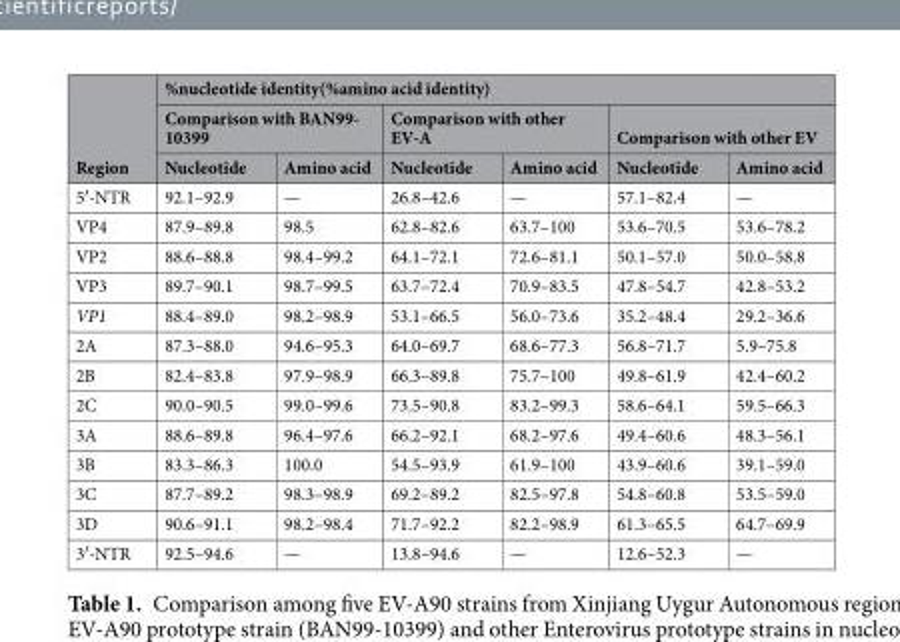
<table><thead><tr><td rowspan="3">Region</td><td colspan="6">%nucleotide identity(%amino acid identity)</td></tr><tr><td colspan="2">Comparison with BAN99- 10399</td><td colspan="2">Comparison with other EV-A</td><td colspan="2">Comparison with other EV</td></tr><tr><td>Nucleotide</td><td>Amino acid</td><td>Nucleotide</td><td>Amino acid</td><td>Nucleotide</td><td>Amino acid</td></tr></thead><tbody><tr><td>5′-NTR</td><td>92.1–92.9</td><td>—</td><td>26.8–42.6</td><td>—</td><td>57.1–82.4</td><td>—</td></tr><tr><td>VP4</td><td>87.9–89.8</td><td>98.5</td><td>62.8–82.6</td><td>63.7–100</td><td>53.6–70.5</td><td>53.6–78.2</td></tr><tr><td>VP2</td><td>88.6–88.8</td><td>98.4–99.2</td><td>64.1–72.1</td><td>72.6–81.1</td><td>50.1–57.0</td><td>50.0–58.8</td></tr><tr><td>VP3</td><td>89.7–90.1</td><td>98.7–99.5</td><td>63.7–72.4</td><td>70.9–83.5</td><td>47.8–54.7</td><td>42.8–53.2</td></tr><tr><td>VP1</td><td>88.4–89.0</td><td>98.2–98.9</td><td>53.1–66.5</td><td>56.0–73.6</td><td>35.2–48.4</td><td>29.2–36.6</td></tr><tr><td>2A</td><td>87.3–88.0</td><td>94.6–95.3</td><td>64.0–69.7</td><td>68.6–77.3</td><td>56.8–71.7</td><td>5.9–75.8</td></tr><tr><td>2B</td><td>82.4–83.8</td><td>97.9–98.9</td><td>66.3–89.8</td><td>75.7–100</td><td>49.8–61.9</td><td>42.4–60.2</td></tr><tr><td>2C</td><td>90.0–90.5</td><td>99.0–99.6</td><td>73.5–90.8</td><td>83.2–99.3</td><td>58.6–64.1</td><td>59.5–66.3</td></tr><tr><td>3A</td><td>88.6–89.8</td><td>96.4–97.6</td><td>66.2–92.1</td><td>68.2–97.6</td><td>49.4–60.6</td><td>48.3–56.1</td></tr><tr><td>3B</td><td>83.3–86.3</td><td>100.0</td><td>54.5–93.9</td><td>61.9–100</td><td>43.9–60.6</td><td>39.1–59.0</td></tr><tr><td>3C</td><td>87.7–89.2</td><td>98.3–98.9</td><td>69.2–89.2</td><td>82.5–97.8</td><td>54.8–60.8</td><td>53.5–59.0</td></tr><tr><td>3D</td><td>90.6–91.1</td><td>98.2–98.4</td><td>71.7–92.2</td><td>82.2–98.9</td><td>61.3–65.5</td><td>64.7–69.9</td></tr><tr><td>3′-NTR</td><td>92.5–94.6</td><td>—</td><td>13.8–94.6</td><td>—</td><td>12.6–52.3</td><td>—</td></tr></tbody></table>